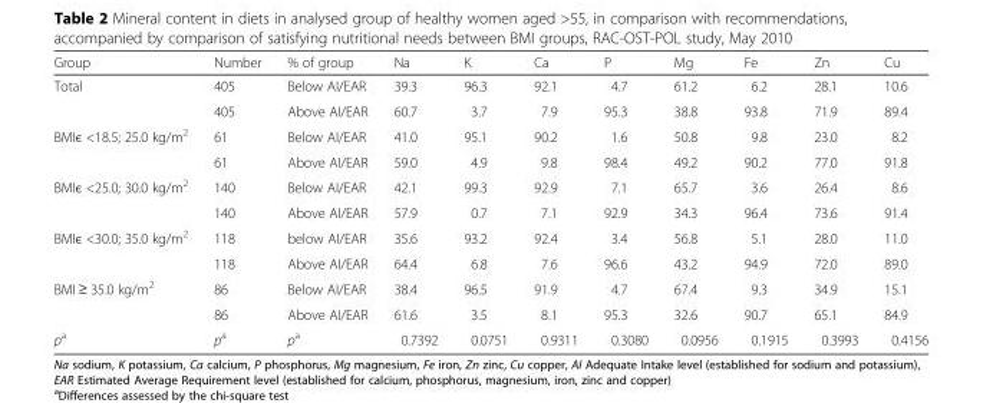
<table><thead><tr><td>Group</td><td>Number</td><td>% of group</td><td>Na</td><td>K</td><td>Ca</td><td>P</td><td>Mg</td><td>Fe</td><td>Zn</td><td>Cu</td></tr></thead><tbody><tr><td rowspan="2">Total</td><td>405</td><td>Below AI/EAR</td><td>39.3</td><td>96.3</td><td>92.1</td><td>4.7</td><td>61.2</td><td>6.2</td><td>28.1</td><td>10.6</td></tr><tr><td>405</td><td>Above AI/EAR</td><td>60.7</td><td>3.7</td><td>7.9</td><td>95.3</td><td>38.8</td><td>93.8</td><td>71.9</td><td>89.4</td></tr><tr><td rowspan="2">BMIϵ &lt;18.5; 25.0 kg/m<sup>2</sup></td><td>61</td><td>Below AI/EAR</td><td>41.0</td><td>95.1</td><td>90.2</td><td>1.6</td><td>50.8</td><td>9.8</td><td>23.0</td><td>8.2</td></tr><tr><td>61</td><td>Above AI/EAR</td><td>59.0</td><td>4.9</td><td>9.8</td><td>98.4</td><td>49.2</td><td>90.2</td><td>77.0</td><td>91.8</td></tr><tr><td rowspan="2">BMIϵ &lt;25.0; 30.0 kg/m<sup>2</sup></td><td>140</td><td>Below AI/EAR</td><td>42.1</td><td>99.3</td><td>92.9</td><td>7.1</td><td>65.7</td><td>3.6</td><td>26.4</td><td>8.6</td></tr><tr><td>140</td><td>Above AI/EAR</td><td>57.9</td><td>0.7</td><td>7.1</td><td>92.9</td><td>34.3</td><td>96.4</td><td>73.6</td><td>91.4</td></tr><tr><td rowspan="2">BMIϵ &lt;30.0; 35.0 kg/m<sup>2</sup></td><td>118</td><td>below AI/EAR</td><td>35.6</td><td>93.2</td><td>92.4</td><td>3.4</td><td>56.8</td><td>5.1</td><td>28.0</td><td>11.0</td></tr><tr><td>118</td><td>Above AI/EAR</td><td>64.4</td><td>6.8</td><td>7.6</td><td>96.6</td><td>43.2</td><td>94.9</td><td>72.0</td><td>89.0</td></tr><tr><td rowspan="2">BMI ≥ 35.0 kg/m<sup>2</sup></td><td>86</td><td>Below AI/EAR</td><td>38.4</td><td>96.5</td><td>91.9</td><td>4.7</td><td>67.4</td><td>9.3</td><td>34.9</td><td>15.1</td></tr><tr><td>86</td><td>Above AI/EAR</td><td>61.6</td><td>3.5</td><td>8.1</td><td>95.3</td><td>32.6</td><td>90.7</td><td>65.1</td><td>84.9</td></tr><tr><td>p<sup>a</sup></td><td>p<sup>a</sup></td><td>p<sup>a</sup></td><td>0.7392</td><td>0.0751</td><td>0.9311</td><td>0.3080</td><td>0.0956</td><td>0.1915</td><td>0.3993</td><td>0.4156</td></tr></tbody></table>